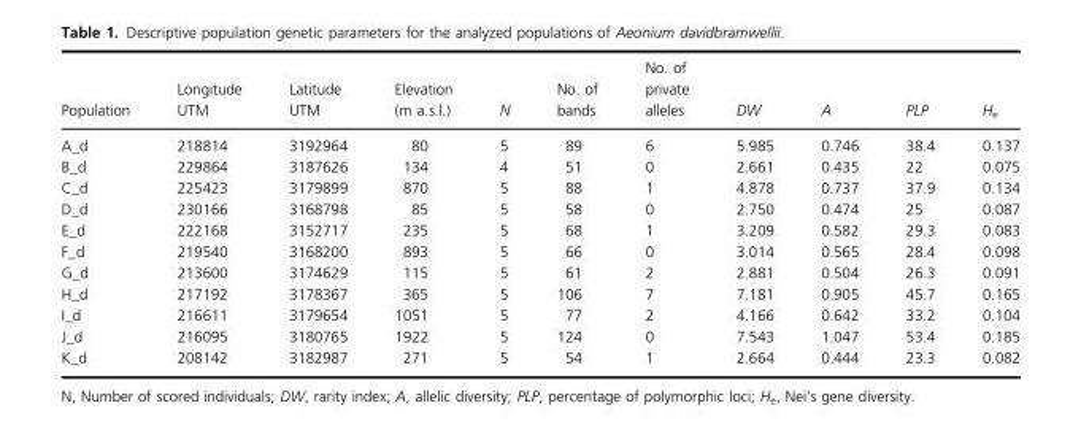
<table><thead><tr><td>Population</td><td>Longitude UTM</td><td>Latitude UTM</td><td>Elevation (m a.s.l.)</td><td>N</td><td>No. of bands</td><td>No. of private alleles</td><td>DW</td><td>A</td><td>PLP</td><td>H<sub>e</sub></td></tr></thead><tbody><tr><td>A_d</td><td>218814</td><td>3192964</td><td>80</td><td>5</td><td>89</td><td>6</td><td>5.985</td><td>0.746</td><td>38.4</td><td>0.137</td></tr><tr><td>B_d</td><td>229864</td><td>3187626</td><td>134</td><td>4</td><td>51</td><td>0</td><td>2.661</td><td>0.435</td><td>22</td><td>0.075</td></tr><tr><td>C_d</td><td>225423</td><td>3179899</td><td>870</td><td>5</td><td>88</td><td>1</td><td>4.878</td><td>0.737</td><td>37.9</td><td>0.134</td></tr><tr><td>D_d</td><td>230166</td><td>3168798</td><td>85</td><td>5</td><td>58</td><td>0</td><td>2.750</td><td>0.474</td><td>25</td><td>0.087</td></tr><tr><td>E_d</td><td>222168</td><td>3152717</td><td>235</td><td>5</td><td>68</td><td>1</td><td>3.209</td><td>0.582</td><td>29.3</td><td>0.083</td></tr><tr><td>F_d</td><td>219540</td><td>3168200</td><td>893</td><td>5</td><td>66</td><td>0</td><td>3.014</td><td>0.565</td><td>28.4</td><td>0.098</td></tr><tr><td>G_d</td><td>213600</td><td>3174629</td><td>115</td><td>5</td><td>61</td><td>2</td><td>2.881</td><td>0.504</td><td>26.3</td><td>0.091</td></tr><tr><td>H_d</td><td>217192</td><td>3178367</td><td>365</td><td>5</td><td>106</td><td>7</td><td>7.181</td><td>0.905</td><td>45.7</td><td>0.165</td></tr><tr><td>I_d</td><td>216611</td><td>3179654</td><td>1051</td><td>5</td><td>77</td><td>2</td><td>4.166</td><td>0.642</td><td>33.2</td><td>0.104</td></tr><tr><td>J_d</td><td>216095</td><td>3180765</td><td>1922</td><td>5</td><td>124</td><td>0</td><td>7.543</td><td>1.047</td><td>53.4</td><td>0.185</td></tr><tr><td>K_d</td><td>208142</td><td>3182987</td><td>271</td><td>5</td><td>54</td><td>1</td><td>2.664</td><td>0.444</td><td>23.3</td><td>0.082</td></tr></tbody></table>